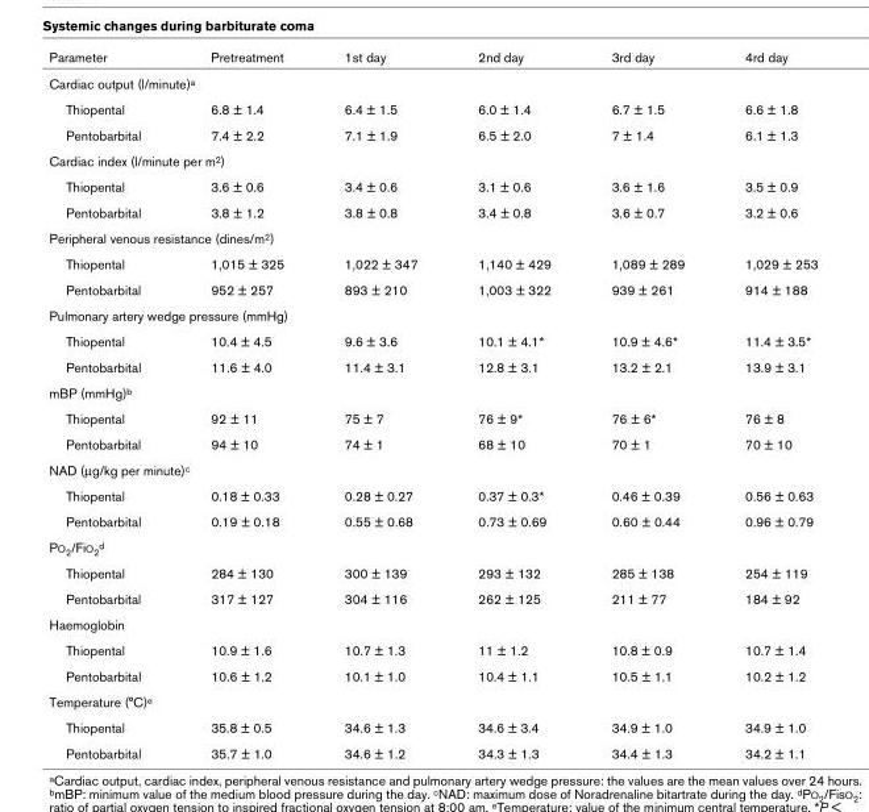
<table><thead><tr><td>Parameter</td><td>Pretreatment</td><td>1st day</td><td>2nd day</td><td>3rd day</td><td>4rd day</td></tr></thead><tbody><tr><td colspan="6">Cardiac output (l/minute)<sup>a</sup></td></tr><tr><td>Thiopental</td><td>6.8 ± 1.4</td><td>6.4 ± 1.5</td><td>6.0 ± 1.4</td><td>6.7 ± 1.5</td><td>6.6 ± 1.8</td></tr><tr><td>Pentobarbital</td><td>7.4 ± 2.2</td><td>7.1 ± 1.9</td><td>6.5 ± 2.0</td><td>7 ± 1.4</td><td>6.1 ± 1.3</td></tr><tr><td colspan="6">Cardiac index (l/minute per m<sup>2</sup>)</td></tr><tr><td>Thiopental</td><td>3.6 ± 0.6</td><td>3.4 ± 0.6</td><td>3.1 ± 0.6</td><td>3.6 ± 1.6</td><td>3.5 ± 0.9</td></tr><tr><td>Pentobarbital</td><td>3.8 ± 1.2</td><td>3.8 ± 0.8</td><td>3.4 ± 0.8</td><td>3.6 ± 0.7</td><td>3.2 ± 0.6</td></tr><tr><td colspan="6">Peripheral venous resistance (dines/m<sup>2</sup>)</td></tr><tr><td>Thiopental</td><td>1,015 ± 325</td><td>1,022 ± 347</td><td>1,140 ± 429</td><td>1,089 ± 289</td><td>1,029 ± 253</td></tr><tr><td>Pentobarbital</td><td>952 ± 257</td><td>893 ± 210</td><td>1,003 ± 322</td><td>939 ± 261</td><td>914 ± 188</td></tr><tr><td colspan="6">Pulmonary artery wedge pressure (mmHg)</td></tr><tr><td>Thiopental</td><td>10.4 ± 4.5</td><td>9.6 ± 3.6</td><td>10.1 ± 4.1*</td><td>10.9 ± 4.6*</td><td>11.4 ± 3.5*</td></tr><tr><td>Pentobarbital</td><td>11.6 ± 4.0</td><td>11.4 ± 3.1</td><td>12.8 ± 3.1</td><td>13.2 ± 2.1</td><td>13.9 ± 3.1</td></tr><tr><td colspan="6">mBP (mmHg)<sup>b</sup></td></tr><tr><td>Thiopental</td><td>92 ± 11</td><td>75 ± 7</td><td>76 ± 9*</td><td>76 ± 6*</td><td>76 ± 8</td></tr><tr><td>Pentobarbital</td><td>94 ± 10</td><td>74 ± 1</td><td>68 ± 10</td><td>70 ± 1</td><td>70 ± 10</td></tr><tr><td colspan="6">NAD (μg/kg per minute)<sup>c</sup></td></tr><tr><td>Thiopental</td><td>0.18 ± 0.33</td><td>0.28 ± 0.27</td><td>0.37 ± 0.3*</td><td>0.46 ± 0.39</td><td>0.56 ± 0.63</td></tr><tr><td>Pentobarbital</td><td>0.19 ± 0.18</td><td>0.55 ± 0.68</td><td>0.73 ± 0.69</td><td>0.60 ± 0.44</td><td>0.96 ± 0.79</td></tr><tr><td colspan="6">PO<sub>2</sub>/FiO<sub>2</sub><sup>d</sup></td></tr><tr><td>Thiopental</td><td>284 ± 130</td><td>300 ± 139</td><td>293 ± 132</td><td>285 ± 138</td><td>254 ± 119</td></tr><tr><td>Pentobarbital</td><td>317 ± 127</td><td>304 ± 116</td><td>262 ± 125</td><td>211 ± 77</td><td>184 ± 92</td></tr><tr><td colspan="6">Haemoglobin</td></tr><tr><td>Thiopental</td><td>10.9 ± 1.6</td><td>10.7 ± 1.3</td><td>11 ± 1.2</td><td>10.8 ± 0.9</td><td>10.7 ± 1.4</td></tr><tr><td>Pentobarbital</td><td>10.6 ± 1.2</td><td>10.1 ± 1.0</td><td>10.4 ± 1.1</td><td>10.5 ± 1.1</td><td>10.2 ± 1.2</td></tr><tr><td colspan="6">Temperature (°C)<sup>e</sup></td></tr><tr><td>Thiopental</td><td>35.8 ± 0.5</td><td>34.6 ± 1.3</td><td>34.6 ± 3.4</td><td>34.9 ± 1.0</td><td>34.9 ± 1.0</td></tr><tr><td>Pentobarbital</td><td>35.7 ± 1.0</td><td>34.6 ± 1.2</td><td>34.3 ± 1.3</td><td>34.4 ± 1.3</td><td>34.2 ± 1.1</td></tr></tbody></table>